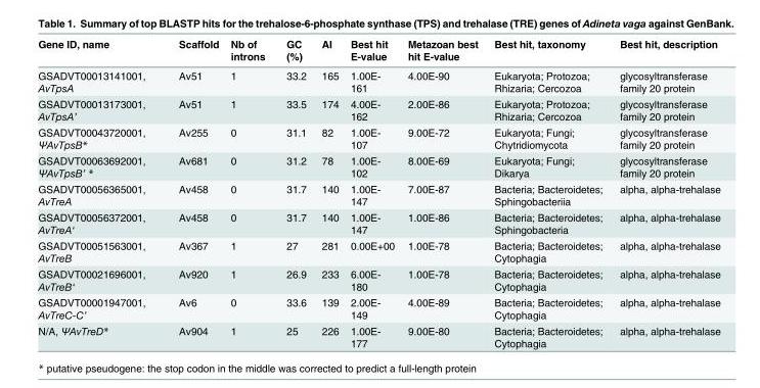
<table><thead><tr><td>Gene ID, name</td><td>Scaffold</td><td>Nb of introns</td><td>GC (%)</td><td>AI</td><td>Best hit E-value</td><td>Metazoan best hit E-value</td><td>Best hit, taxonomy</td><td>Best hit, description</td></tr></thead><tbody><tr><td>GSADVT00013141001, AvTpsA</td><td>Av51</td><td>1</td><td>33.2</td><td>165</td><td>1.00E- 161</td><td>4.00E-90</td><td>Eukaryota; Protozoa; Rhizaria; Cercozoa</td><td>glycosyltransferase family 20 protein</td></tr><tr><td>GSADVT00013173001, AvTpsA’</td><td>Av51</td><td>1</td><td>33.5</td><td>174</td><td>4.00E- 162</td><td>2.00E-86</td><td>Eukaryota; Protozoa; Rhizaria; Cercozoa</td><td>glycosyltransferase family 20 protein</td></tr><tr><td>GSADVT00043720001, ΨAvTpsB*</td><td>Av255</td><td>0</td><td>31.1</td><td>82</td><td>1.00E- 107</td><td>9.00E-72</td><td>Eukaryota; Fungi; Chytridiomycota</td><td>glycosyltransferase family 20 protein</td></tr><tr><td>GSADVT00063692001, ΨAvTpsB’ *</td><td>Av681</td><td>0</td><td>31.2</td><td>78</td><td>1.00E- 102</td><td>8.00E-69</td><td>Eukaryota; Fungi; Dikarya</td><td>glycosyltransferase family 20 protein</td></tr><tr><td>GSADVT00056365001, AvTreA</td><td>Av458</td><td>0</td><td>31.7</td><td>140</td><td>1.00E- 147</td><td>7.00E-87</td><td>Bacteria; Bacteroidetes; Sphingobacteriia</td><td>alpha, alpha-trehalase</td></tr><tr><td>GSADVT00056372001, AvTreA‘</td><td>Av458</td><td>0</td><td>31.7</td><td>140</td><td>1.00E- 147</td><td>1.00E-86</td><td>Bacteria; Bacteroidetes; Sphingobacteria</td><td>alpha, alpha-trehalase</td></tr><tr><td>GSADVT00051563001, AvTreB</td><td>Av367</td><td>1</td><td>27</td><td>281</td><td>0.00E+00</td><td>1.00E-78</td><td>Bacteria; Bacteroidetes; Cytophagia</td><td>alpha, alpha-trehalase</td></tr><tr><td>GSADVT00021696001, AvTreB‘</td><td>Av920</td><td>1</td><td>26.9</td><td>233</td><td>6.00E- 180</td><td>1.00E-78</td><td>Bacteria; Bacteroidetes; Cytophagia</td><td>alpha, alpha-trehalase</td></tr><tr><td>GSADVT00001947001, AvTreC-C’</td><td>Av6</td><td>0</td><td>33.6</td><td>139</td><td>2.00E- 149</td><td>4.00E-89</td><td>Bacteria; Bacteroidetes; Cytophagia</td><td>alpha, alpha-trehalase</td></tr><tr><td>N/A, ΨAvTreD*</td><td>Av904</td><td>1</td><td>25</td><td>226</td><td>1.00E- 177</td><td>9.00E-80</td><td>Bacteria; Bacteroidetes; Cytophagia</td><td>alpha, alpha-trehalase</td></tr></tbody></table>